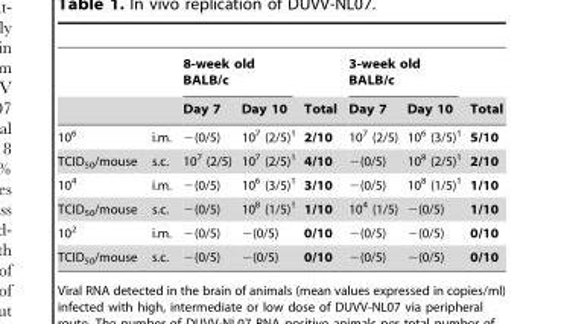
<table><thead><tr><td rowspan="2"></td><td rowspan="2"></td><td colspan="2">8-week old BALB/c</td><td rowspan="2">Total</td><td colspan="2">3-week old BALB/c</td><td rowspan="2">Total</td></tr><tr><td>Day 7</td><td>Day 10</td><td>Day 7</td><td>Day 10</td></tr></thead><tbody><tr><td>10<sup>6</sup></td><td>i.m.</td><td>−(0/5)</td><td>10<sup>7</sup> (2/5)<sup>1</sup></td><td>2/10</td><td>10<sup>7</sup> (2/5)</td><td>10<sup>6</sup> (3/5)<sup>1</sup></td><td>5/10</td></tr><tr><td>TCID<sub>50</sub>/mouse</td><td>s.c.</td><td>10<sup>7</sup> (2/5)</td><td>10<sup>7</sup> (2/5)<sup>1</sup></td><td>4/10</td><td>−(0/5)</td><td>10<sup>8</sup> (2/5)<sup>1</sup></td><td>2/10</td></tr><tr><td>10<sup>4</sup></td><td>i.m.</td><td>−(0/5)</td><td>10<sup>6</sup> (3/5)<sup>1</sup></td><td>3/10</td><td>−(0/5)</td><td>10<sup>8</sup> (1/5)<sup>1</sup></td><td>1/10</td></tr><tr><td>TCID<sub>50</sub>/mouse</td><td>s.c.</td><td>−(0/5)</td><td>10<sup>8</sup> (1/5)<sup>1</sup></td><td>1/10</td><td>10<sup>4</sup> (1/5)</td><td>−(0/5)</td><td>1/10</td></tr><tr><td>10<sup>2</sup></td><td>i.m.</td><td>−(0/5)</td><td>−(0/5)</td><td>0/10</td><td>−(0/5)</td><td>−(0/5)</td><td>0/10</td></tr><tr><td>TCID<sub>50</sub>/mouse</td><td>s.c.</td><td>−(0/5)</td><td>−(0/5)</td><td>0/10</td><td>−(0/5)</td><td>−(0/5)</td><td>0/10</td></tr></tbody></table>